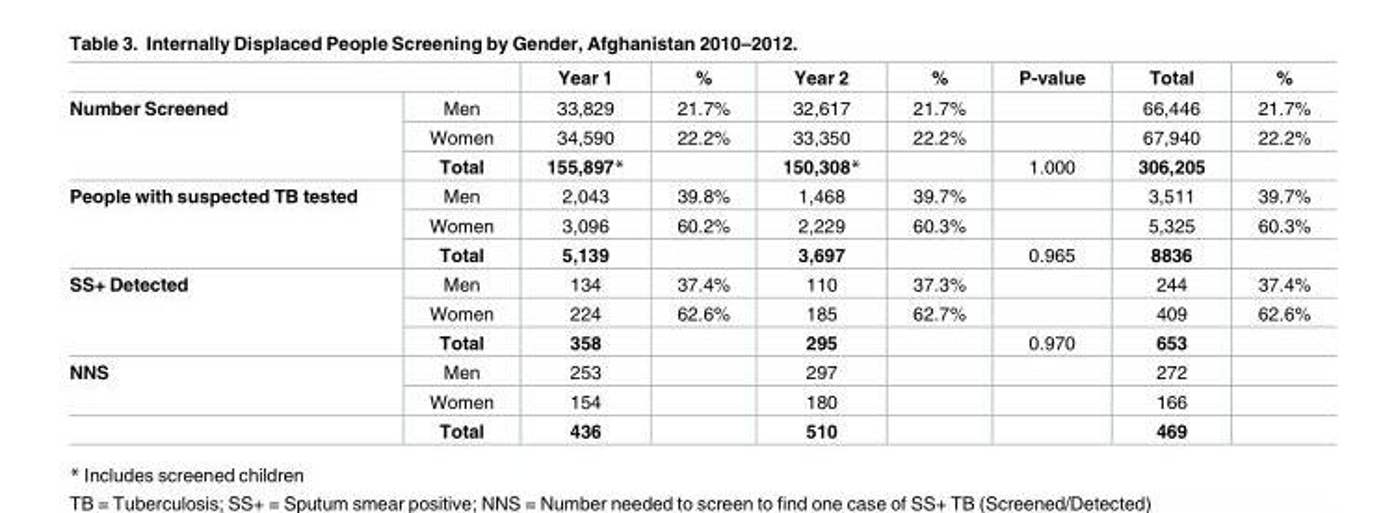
<table><thead><tr><td></td><td></td><td>Year 1</td><td>%</td><td>Year 2</td><td>%</td><td>P-value</td><td>Total</td><td>%</td></tr></thead><tbody><tr><td rowspan="3">Number Screened</td><td>Men</td><td>33,829</td><td>21.7%</td><td>32,617</td><td>21.7%</td><td></td><td>66,446</td><td>21.7%</td></tr><tr><td>Women</td><td>34,590</td><td>22.2%</td><td>33,350</td><td>22.2%</td><td></td><td>67,940</td><td>22.2%</td></tr><tr><td>Total</td><td>155,897*</td><td></td><td>150,308*</td><td></td><td>1.000</td><td>306,205</td><td></td></tr><tr><td rowspan="3">People with suspected TB tested</td><td>Men</td><td>2,043</td><td>39.8%</td><td>1,468</td><td>39.7%</td><td></td><td>3,511</td><td>39.7%</td></tr><tr><td>Women</td><td>3,096</td><td>60.2%</td><td>2,229</td><td>60.3%</td><td></td><td>5,325</td><td>60.3%</td></tr><tr><td>Total</td><td>5,139</td><td></td><td>3,697</td><td></td><td>0.965</td><td>8836</td><td></td></tr><tr><td rowspan="3">SS+ Detected</td><td>Men</td><td>134</td><td>37.4%</td><td>110</td><td>37.3%</td><td></td><td>244</td><td>37.4%</td></tr><tr><td>Women</td><td>224</td><td>62.6%</td><td>185</td><td>62.7%</td><td></td><td>409</td><td>62.6%</td></tr><tr><td>Total</td><td>358</td><td></td><td>295</td><td></td><td>0.970</td><td>653</td><td></td></tr><tr><td rowspan="3">NNS</td><td>Men</td><td>253</td><td></td><td>297</td><td></td><td></td><td>272</td><td></td></tr><tr><td>Women</td><td>154</td><td></td><td>180</td><td></td><td></td><td>166</td><td></td></tr><tr><td>Total</td><td>436</td><td></td><td>510</td><td></td><td></td><td>469</td><td></td></tr></tbody></table>